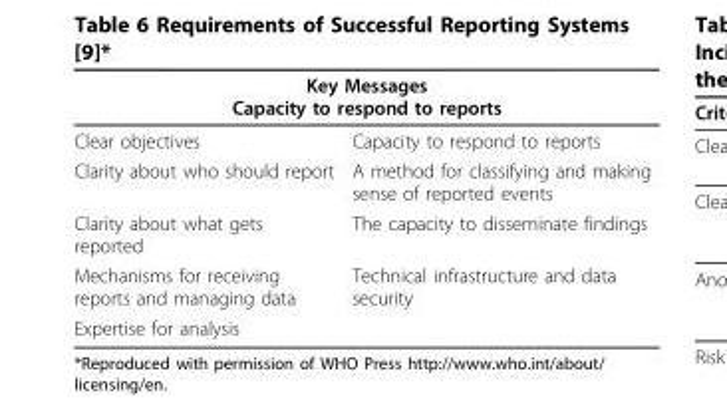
<table><thead><tr><td colspan="2">Key Messages Capacity to respond to reports</td></tr><tr><td>Clear objectives</td><td>Capacity to respond to reports</td></tr></thead><tbody><tr><td>Clarity about who should report</td><td>A method for classifying and making sense of reported events</td></tr><tr><td>Clarity about what gets reported</td><td>The capacity to disseminate findings</td></tr><tr><td>Mechanisms for receiving reports and managing data</td><td>Technical infrastructure and data security</td></tr><tr><td>Expertise for analysis</td><td></td></tr></tbody></table>